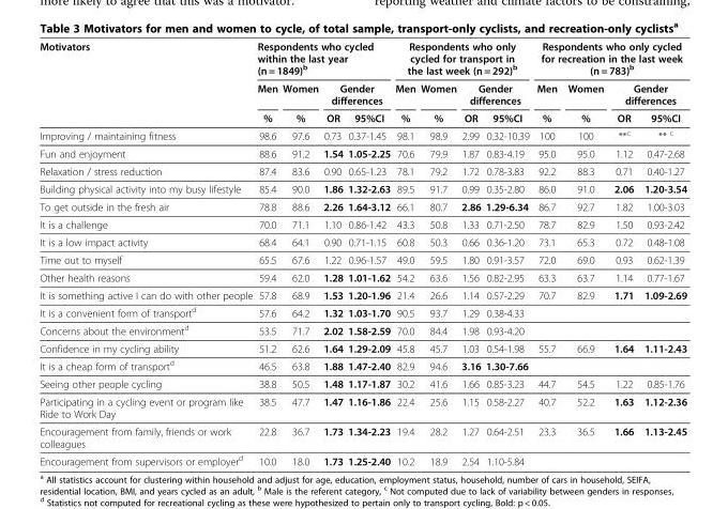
<table><thead><tr><td rowspan="3">Motivators</td><td colspan="4">Respondents who cycled within the last year (n = 1849)<sup>b</sup></td><td colspan="4">Respondents who only cycled for transport in the last week (n = 292)<sup>b</sup></td><td colspan="4">Respondents who only cycled for recreation in the last week (n = 783)<sup>b</sup></td></tr><tr><td rowspan="2">Men %</td><td rowspan="2">Women %</td><td colspan="2">Gender differences</td><td rowspan="2">Men %</td><td rowspan="2">Women %</td><td colspan="2">Gender differences</td><td rowspan="2">Men %</td><td rowspan="2">Women %</td><td colspan="2">Gender differences</td></tr><tr><td>OR</td><td>95%CI</td><td>OR</td><td>95%CI</td><td>OR</td><td>95%CI</td></tr></thead><tbody><tr><td>Improving / maintaining fitness</td><td>98.6</td><td>97.6</td><td>0.73</td><td>0.37-1.45</td><td>98.1</td><td>98.9</td><td>2.99</td><td>0.32-10.39</td><td>100</td><td>100</td><td>**<sup>c</sup></td><td>** <sup>c</sup></td></tr><tr><td>Fun and enjoyment</td><td>88.6</td><td>91.2</td><td>1.54</td><td>1.05-2.25</td><td>70.6</td><td>79.9</td><td>1.87</td><td>0.83-4.19</td><td>95.0</td><td>95.0</td><td>1.12</td><td>0.47-2.68</td></tr><tr><td>Relaxation / stress reduction</td><td>87.4</td><td>83.6</td><td>0.90</td><td>0.65-1.23</td><td>78.1</td><td>79.2</td><td>1.72</td><td>0.78-3.83</td><td>92.2</td><td>88.3</td><td>0.71</td><td>0.40-1.27</td></tr><tr><td>Building physical activity into my busy lifestyle</td><td>85.4</td><td>90.0</td><td>1.86</td><td>1.32-2.63</td><td>89.5</td><td>91.7</td><td>0.99</td><td>0.35-2.80</td><td>86.0</td><td>91.0</td><td>2.06</td><td>1.20-3.54</td></tr><tr><td>To get outside in the fresh air</td><td>78.8</td><td>88.6</td><td>2.26</td><td>1.64-3.12</td><td>66.1</td><td>80.7</td><td>2.86</td><td>1.29-6.34</td><td>86.7</td><td>92.7</td><td>1.82</td><td>1.00-3.03</td></tr><tr><td>It is a challenge</td><td>70.0</td><td>71.1</td><td>1.10</td><td>0.86-1.42</td><td>43.3</td><td>50.8</td><td>1.33</td><td>0.71-2.50</td><td>78.7</td><td>82.9</td><td>1.50</td><td>0.93-2.42</td></tr><tr><td>It is a low impact activity</td><td>68.4</td><td>64.1</td><td>0.90</td><td>0.71-1.15</td><td>60.8</td><td>50.3</td><td>0.66</td><td>0.36-1.20</td><td>73.1</td><td>65.3</td><td>0.72</td><td>0.48-1.08</td></tr><tr><td>Time out to myself</td><td>65.5</td><td>67.6</td><td>1.22</td><td>0.96-1.57</td><td>49.0</td><td>59.5</td><td>1.80</td><td>0.91-3.57</td><td>72.0</td><td>69.0</td><td>0.93</td><td>0.62-1.39</td></tr><tr><td>Other health reasons</td><td>59.4</td><td>62.0</td><td>1.28</td><td>1.01-1.62</td><td>54.2</td><td>63.6</td><td>1.56</td><td>0.82-2.95</td><td>63.3</td><td>63.7</td><td>1.14</td><td>0.77-1.67</td></tr><tr><td>It is something active I can do with other people</td><td>57.8</td><td>68.9</td><td>1.53</td><td>1.20-1.96</td><td>21.4</td><td>26.6</td><td>1.14</td><td>0.57-2.29</td><td>70.7</td><td>82.9</td><td>1.71</td><td>1.09-2.69</td></tr><tr><td>It is a convenient form of transport<sup>d</sup></td><td>57.6</td><td>64.2</td><td>1.32</td><td>1.03-1.70</td><td>90.5</td><td>93.7</td><td>1.29</td><td>0.38-4.33</td><td></td><td></td><td></td><td></td></tr><tr><td>Concerns about the environment<sup>d</sup></td><td>53.5</td><td>71.7</td><td>2.02</td><td>1.58-2.59</td><td>70.0</td><td>84.4</td><td>1.98</td><td>0.93-4.20</td><td></td><td></td><td></td><td></td></tr><tr><td>Confidence in my cycling ability</td><td>51.2</td><td>62.6</td><td>1.64</td><td>1.29-2.09</td><td>45.8</td><td>45.7</td><td>1.03</td><td>0.54-1.98</td><td>55.7</td><td>66.9</td><td>1.64</td><td>1.11-2.43</td></tr><tr><td>It is a cheap form of transport<sup>d</sup></td><td>46.5</td><td>63.8</td><td>1.88</td><td>1.47-2.40</td><td>82.9</td><td>94.6</td><td>3.16</td><td>1.30-7.66</td><td></td><td></td><td></td><td></td></tr><tr><td>Seeing other people cycling</td><td>38.8</td><td>50.5</td><td>1.48</td><td>1.17-1.87</td><td>30.2</td><td>41.6</td><td>1.66</td><td>0.85-3.23</td><td>44.7</td><td>54.5</td><td>1.22</td><td>0.85-1.76</td></tr><tr><td>Participating in a cycling event or program like Ride to Work Day</td><td>38.5</td><td>47.7</td><td>1.47</td><td>1.16-1.86</td><td>22.4</td><td>25.6</td><td>1.15</td><td>0.58-2.27</td><td>40.7</td><td>52.2</td><td>1.63</td><td>1.12-2.36</td></tr><tr><td>Encouragement from family, friends or work colleagues</td><td>22.8</td><td>36.7</td><td>1.73</td><td>1.34-2.23</td><td>19.4</td><td>28.2</td><td>1.27</td><td>0.64-2.51</td><td>23.3</td><td>36.5</td><td>1.66</td><td>1.13-2.45</td></tr><tr><td>Encouragement from supervisors or employer<sup>d</sup></td><td>10.0</td><td>18.0</td><td>1.73</td><td>1.25-2.40</td><td>10.2</td><td>18.9</td><td>2.54</td><td>1.10-5.84</td><td></td><td></td><td></td><td></td></tr></tbody></table>